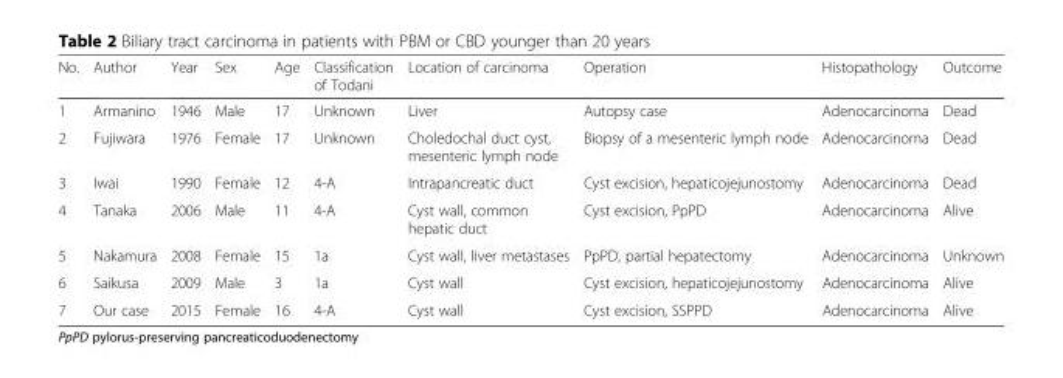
<table><thead><tr><td>No.</td><td>Author</td><td>Year</td><td>Sex</td><td>Age</td><td>Classification of Todani</td><td>Location of carcinoma</td><td>Operation</td><td>Histopathology</td><td>Outcome</td></tr></thead><tbody><tr><td>1</td><td>Armanino</td><td>1946</td><td>Male</td><td>17</td><td>Unknown</td><td>Liver</td><td>Autopsy case</td><td>Adenocarcinoma</td><td>Dead</td></tr><tr><td>2</td><td>Fujiwara</td><td>1976</td><td>Female</td><td>17</td><td>Unknown</td><td>Choledochal duct cyst, mesenteric lymph node</td><td>Biopsy of a mesenteric lymph node</td><td>Adenocarcinoma</td><td>Dead</td></tr><tr><td>3</td><td>Iwai</td><td>1990</td><td>Female</td><td>12</td><td>4-A</td><td>Intrapancreatic duct</td><td>Cyst excision, hepaticojejunostomy</td><td>Adenocarcinoma</td><td>Dead</td></tr><tr><td>4</td><td>Tanaka</td><td>2006</td><td>Male</td><td>11</td><td>4-A</td><td>Cyst wall, common hepatic duct</td><td>Cyst excision, PpPD</td><td>Adenocarcinoma</td><td>Alive</td></tr><tr><td>5</td><td>Nakamura</td><td>2008</td><td>Female</td><td>15</td><td>1a</td><td>Cyst wall, liver metastases</td><td>PpPD, partial hepatectomy</td><td>Adenocarcinoma</td><td>Unknown</td></tr><tr><td>6</td><td>Saikusa</td><td>2009</td><td>Male</td><td>3</td><td>1a</td><td>Cyst wall</td><td>Cyst excision, hepaticojejunostomy</td><td>Adenocarcinoma</td><td>Alive</td></tr><tr><td>7</td><td>Our case</td><td>2015</td><td>Female</td><td>16</td><td>4-A</td><td>Cyst wall</td><td>Cyst excision, SSPPD</td><td>Adenocarcinoma</td><td>Alive</td></tr></tbody></table>